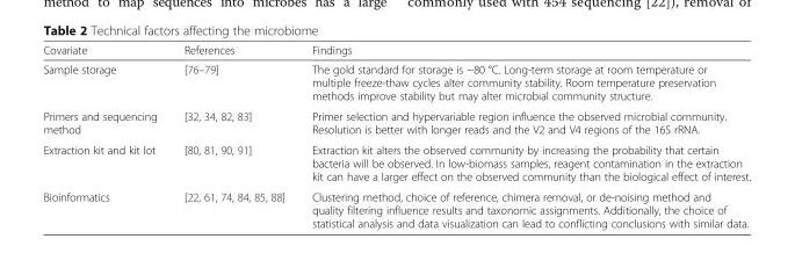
<table><thead><tr><td>Covariate</td><td>References</td><td>Findings</td></tr></thead><tbody><tr><td>Sample storage</td><td>[76–79]</td><td>The gold standard for storage is −80 °C. Long-term storage at room temperature or multiple freeze-thaw cycles alter community stability. Room temperature preservation methods improve stability but may alter microbial community structure.</td></tr><tr><td>Primers and sequencing method</td><td>[32, 34, 82, 83]</td><td>Primer selection and hypervariable region influence the observed microbial community. Resolution is better with longer reads and the V2 and V4 regions of the 16S rRNA.</td></tr><tr><td>Extraction kit and kit lot</td><td>[80, 81, 90, 91]</td><td>Extraction kit alters the observed community by increasing the probability that certain bacteria will be observed. In low-biomass samples, reagent contamination in the extraction kit can have a larger effect on the observed community than the biological effect of interest.</td></tr><tr><td>Bioinformatics</td><td>[22, 61, 74, 84, 85, 88]</td><td>Clustering method, choice of reference, chimera removal, or de-noising method and quality filtering influence results and taxonomic assignments. Additionally, the choice of statistical analysis and data visualization can lead to conflicting conclusions with similar data.</td></tr></tbody></table>